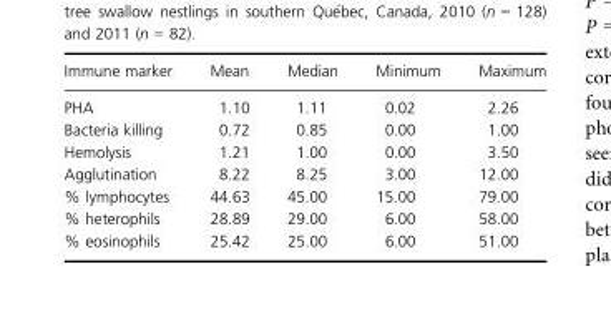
<table><thead><tr><td>Immune marker</td><td>Mean</td><td>Median</td><td>Minimum</td><td>Maximum</td></tr></thead><tbody><tr><td>PHA</td><td>1.10</td><td>1.11</td><td>0.02</td><td>2.26</td></tr><tr><td>Bacteria killing</td><td>0.72</td><td>0.85</td><td>0.00</td><td>1.00</td></tr><tr><td>Hemolysis</td><td>1.21</td><td>1.00</td><td>0.00</td><td>3.50</td></tr><tr><td>Agglutination</td><td>8.22</td><td>8.25</td><td>3.00</td><td>12.00</td></tr><tr><td>% lymphocytes</td><td>44.63</td><td>45.00</td><td>15.00</td><td>79.00</td></tr><tr><td>% heterophils</td><td>28.89</td><td>29.00</td><td>6.00</td><td>58.00</td></tr><tr><td>% eosinophils</td><td>25.42</td><td>25.00</td><td>6.00</td><td>51.00</td></tr></tbody></table>